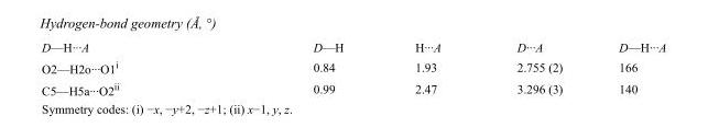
<table><tbody><tr><td>D—H···A</td><td>D—H</td><td>H···A</td><td>D···A</td><td>D—H···A</td></tr><tr><td>O2—H2o···O1<sup>i</sup></td><td>0.84</td><td>1.93</td><td>2.755 (2)</td><td>166</td></tr><tr><td>C5—H5a···O2<sup>ii</sup></td><td>0.99</td><td>2.47</td><td>3.296 (3)</td><td>140</td></tr></tbody></table>